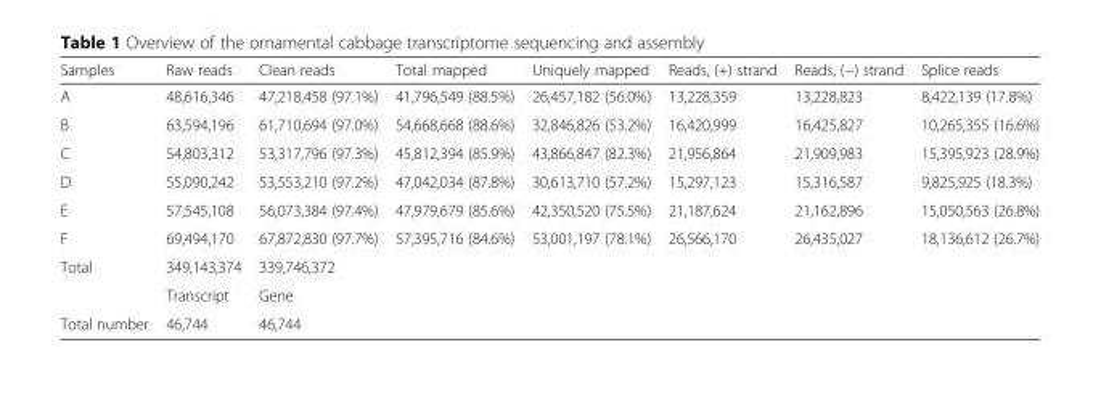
<table><thead><tr><td>Samples</td><td>Raw reads</td><td>Clean reads</td><td>Total mapped</td><td>Uniquely mapped</td><td>Reads, (+) strand</td><td>Reads, (−) strand</td><td>Splice reads</td></tr></thead><tbody><tr><td>A</td><td>48,616,346</td><td>47,218,458 (97.1%)</td><td>41,796,549 (88.5%)</td><td>26,457,182 (56.0%)</td><td>13,228,359</td><td>13,228,823</td><td>8,422,139 (17.8%)</td></tr><tr><td>B</td><td>63,594,196</td><td>61,710,694 (97.0%)</td><td>54,668,668 (88.6%)</td><td>32,846,826 (53.2%)</td><td>16,420,999</td><td>16,425,827</td><td>10,265,355 (16.6%)</td></tr><tr><td>C</td><td>54,803,312</td><td>53,317,796 (97.3%)</td><td>45,812,394 (85.9%)</td><td>43,866,847 (82.3%)</td><td>21,956,864</td><td>21,909,983</td><td>15,395,923 (28.9%)</td></tr><tr><td>D</td><td>55,090,242</td><td>53,553,210 (97.2%)</td><td>47,042,034 (87.8%)</td><td>30,613,710 (57.2%)</td><td>15,297,123</td><td>15,316,587</td><td>9,825,925 (18.3%)</td></tr><tr><td>E</td><td>57,545,108</td><td>56,073,384 (97.4%)</td><td>47,979,679 (85.6%)</td><td>42,350,520 (75.5%)</td><td>21,187,624</td><td>21,162,896</td><td>15,050,563 (26.8%)</td></tr><tr><td>F</td><td>69,494,170</td><td>67,872,830 (97.7%)</td><td>57,395,716 (84.6%)</td><td>53,001,197 (78.1%)</td><td>26,566,170</td><td>26,435,027</td><td>18,136,612 (26.7%)</td></tr><tr><td rowspan="2">Total</td><td>349,143,374</td><td>339,746,372</td><td></td><td></td><td></td><td></td><td></td></tr><tr><td>Transcript</td><td>Gene</td><td></td><td></td><td></td><td></td><td></td></tr><tr><td>Total number</td><td>46,744</td><td>46,744</td><td></td><td></td><td></td><td></td><td></td></tr></tbody></table>